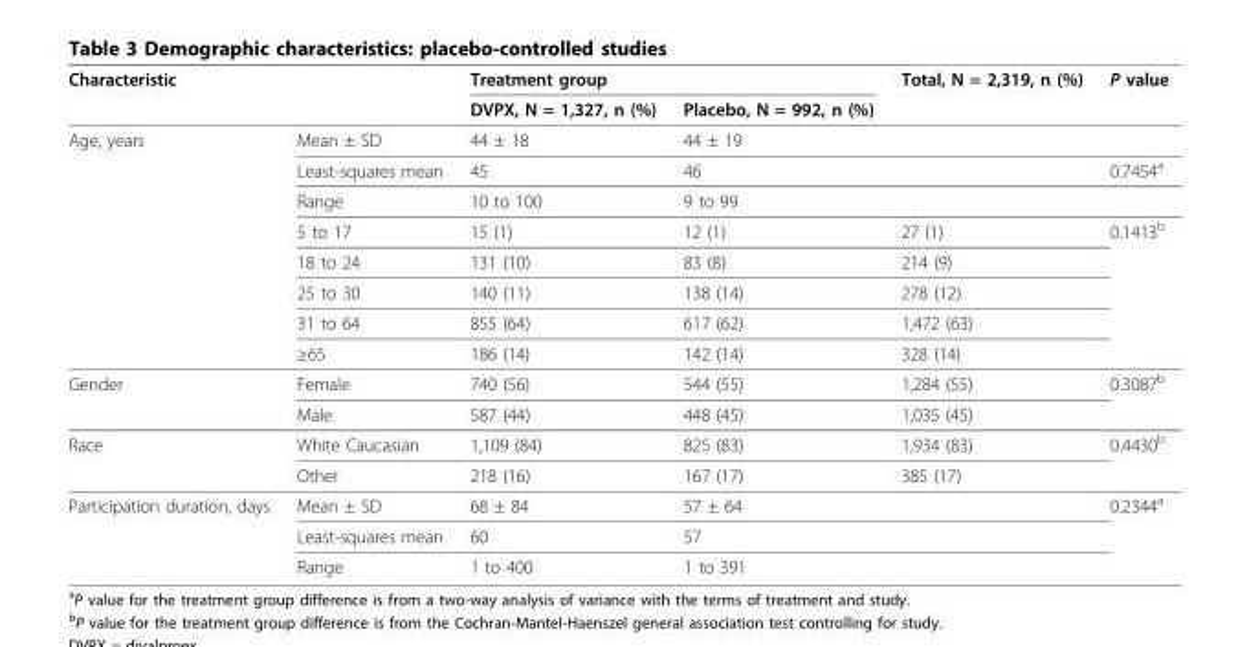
<table><thead><tr><td colspan="2">Characteristic</td><td colspan="2">Treatment group</td><td rowspan="2">Total, N = 2,319, n (%)</td><td rowspan="2">P value</td></tr><tr><td></td><td></td><td>DVPX, N = 1,327, n (%)</td><td>Placebo, N = 992, n (%)</td></tr></thead><tbody><tr><td rowspan="8">Age, years</td><td>Mean ± SD</td><td>44 ± 18</td><td>44 ± 19</td><td></td><td></td></tr><tr><td>Least-squares mean</td><td>45</td><td>46</td><td></td><td>0.7454<sup>a</sup></td></tr><tr><td>Range</td><td>10 to 100</td><td>9 to 99</td><td></td><td></td></tr><tr><td>5 to 17</td><td>15 (1)</td><td>12 (1)</td><td>27 (1)</td><td>0.1413<sup>b</sup></td></tr><tr><td>18 to 24</td><td>131 (10)</td><td>83 (8)</td><td>214 (9)</td><td></td></tr><tr><td>25 to 30</td><td>140 (11)</td><td>138 (14)</td><td>278 (12)</td><td></td></tr><tr><td>31 to 64</td><td>855 (64)</td><td>617 (62)</td><td>1,472 (63)</td><td></td></tr><tr><td>≥65</td><td>186 (14)</td><td>142 (14)</td><td>328 (14)</td><td></td></tr><tr><td rowspan="2">Gender</td><td>Female</td><td>740 (56)</td><td>544 (55)</td><td>1,284 (55)</td><td>0.3087<sup>b</sup></td></tr><tr><td>Male</td><td>587 (44)</td><td>448 (45)</td><td>1,035 (45)</td><td></td></tr><tr><td rowspan="2">Race</td><td>White Caucasian</td><td>1,109 (84)</td><td>825 (83)</td><td>1,934 (83)</td><td>0.4430<sup>b</sup></td></tr><tr><td>Other</td><td>218 (16)</td><td>167 (17)</td><td>385 (17)</td><td></td></tr><tr><td rowspan="3">Participation duration, days</td><td>Mean ± SD</td><td>68 ± 84</td><td>57 ± 64</td><td></td><td>0.2344<sup>a</sup></td></tr><tr><td>Least-squares mean</td><td>60</td><td>57</td><td></td><td></td></tr><tr><td>Range</td><td>1 to 400</td><td>1 to 391</td><td></td><td></td></tr></tbody></table>